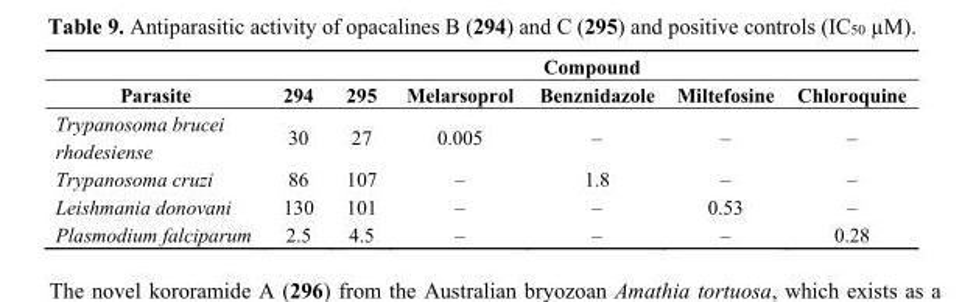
<table><thead><tr><td rowspan="2">Parasite</td><td colspan="6">Compound</td></tr><tr><td>294</td><td>295</td><td>Melarsoprol</td><td>Benznidazole</td><td>Miltefosine</td><td>Chloroquine</td></tr></thead><tbody><tr><td>Trypanosoma brucei rhodesiense</td><td>30</td><td>27</td><td>0.005</td><td>–</td><td>–</td><td>–</td></tr><tr><td>Trypanosoma cruzi</td><td>86</td><td>107</td><td>–</td><td>1.8</td><td>–</td><td>–</td></tr><tr><td>Leishmania donovani</td><td>130</td><td>101</td><td>–</td><td>–</td><td>0.53</td><td>–</td></tr><tr><td>Plasmodium falciparum</td><td>2.5</td><td>4.5</td><td>–</td><td>–</td><td>–</td><td>0.28</td></tr></tbody></table>